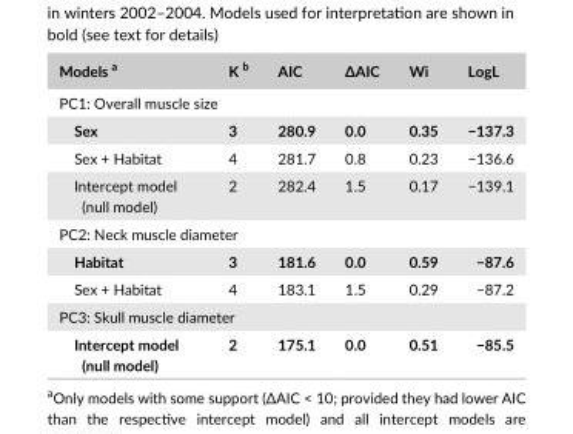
<table><thead><tr><td>Models a</td><td>K b</td><td>AIC</td><td>ΔAIC</td><td>Wi</td><td>LogL</td></tr></thead><tbody><tr><td colspan="6">PC1: Overall muscle size</td></tr><tr><td>Sex</td><td>3</td><td>280.9</td><td>0.0</td><td>0.35</td><td>−137.3</td></tr><tr><td>Sex + Habitat</td><td>4</td><td>281.7</td><td>0.8</td><td>0.23</td><td>−136.6</td></tr><tr><td>Intercept model (null model)</td><td>2</td><td>282.4</td><td>1.5</td><td>0.17</td><td>−139.1</td></tr><tr><td colspan="6">PC2: Neck muscle diameter</td></tr><tr><td>Habitat</td><td>3</td><td>181.6</td><td>0.0</td><td>0.59</td><td>−87.6</td></tr><tr><td>Sex + Habitat</td><td>4</td><td>183.1</td><td>1.5</td><td>0.29</td><td>−87.2</td></tr><tr><td colspan="6">PC3: Skull muscle diameter</td></tr><tr><td>Intercept model (null model)</td><td>2</td><td>175.1</td><td>0.0</td><td>0.51</td><td>−85.5</td></tr></tbody></table>